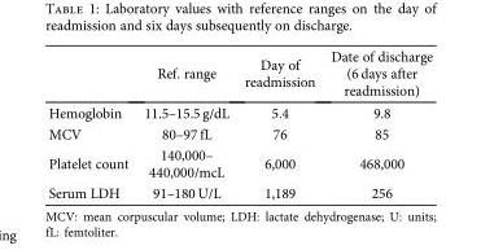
<table><thead><tr><td></td><td>Ref. range</td><td>Day of readmission</td><td>Date of discharge (6 days after readmission)</td></tr></thead><tbody><tr><td>Hemoglobin</td><td>11.5–15.5 g/dL</td><td>5.4</td><td>9.8</td></tr><tr><td>MCV</td><td>80–97 fL</td><td>76</td><td>85</td></tr><tr><td>Platelet count</td><td>140,000– 440,000/mcL</td><td>6,000</td><td>468,000</td></tr><tr><td>Serum LDH</td><td>91–180 U/L</td><td>1,189</td><td>256</td></tr></tbody></table>